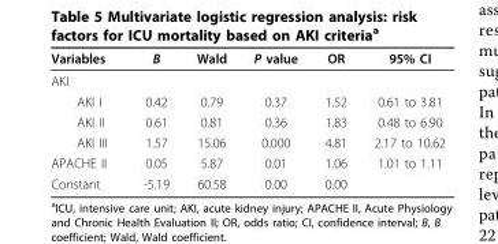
<table><thead><tr><td>Variables</td><td>B</td><td>Wald</td><td>P value</td><td>OR</td><td>95% CI</td></tr></thead><tbody><tr><td colspan="6">AKI</td></tr><tr><td>AKI I</td><td>0.42</td><td>0.79</td><td>0.37</td><td>1.52</td><td>0.61 to 3.81</td></tr><tr><td>AKI II</td><td>0.61</td><td>0.81</td><td>0.36</td><td>1.83</td><td>0.48 to 6.90</td></tr><tr><td>AKI III</td><td>1.57</td><td>15.06</td><td>0.000</td><td>4.81</td><td>2.17 to 10.62</td></tr><tr><td>APACHE II</td><td>0.05</td><td>5.87</td><td>0.01</td><td>1.06</td><td>1.01 to 1.11</td></tr><tr><td>Constant</td><td>-5.19</td><td>60.58</td><td>0.00</td><td>0.00</td><td></td></tr></tbody></table>